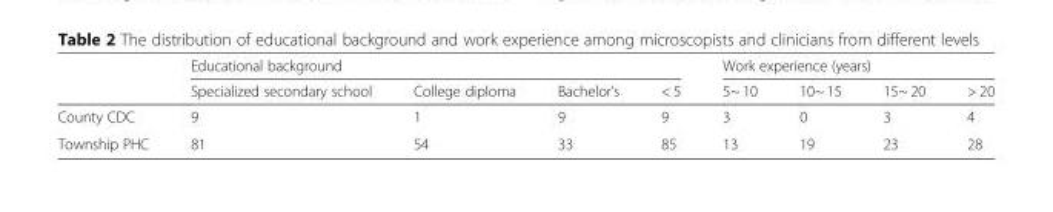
<table><thead><tr><td rowspan="2"></td><td colspan="4">Educational background</td><td colspan="4">Work experience (years)</td></tr><tr><td>Specialized secondary school</td><td>College diploma</td><td>Bachelor’s</td><td>&lt; 5</td><td>5~ 10</td><td>10~ 15</td><td>15~ 20</td><td>&gt; 20</td></tr></thead><tbody><tr><td>County CDC</td><td>9</td><td>1</td><td>9</td><td>9</td><td>3</td><td>0</td><td>3</td><td>4</td></tr><tr><td>Township PHC</td><td>81</td><td>54</td><td>33</td><td>85</td><td>13</td><td>19</td><td>23</td><td>28</td></tr></tbody></table>